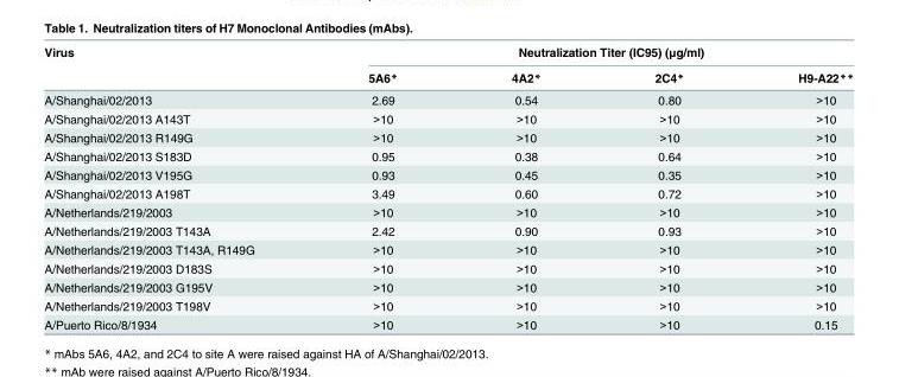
<table><thead><tr><td rowspan="2">Virus</td><td colspan="4">Neutralization Titer (IC95) (μg/ml)</td></tr><tr><td>5A6*</td><td>4A2*</td><td>2C4*</td><td>H9-A22**</td></tr></thead><tbody><tr><td>A/Shanghai/02/2013</td><td>2.69</td><td>0.54</td><td>0.80</td><td>&gt;10</td></tr><tr><td>A/Shanghai/02/2013 A143T</td><td>&gt;10</td><td>&gt;10</td><td>&gt;10</td><td>&gt;10</td></tr><tr><td>A/Shanghai/02/2013 R149G</td><td>&gt;10</td><td>&gt;10</td><td>&gt;10</td><td>&gt;10</td></tr><tr><td>A/Shanghai/02/2013 S183D</td><td>0.95</td><td>0.38</td><td>0.64</td><td>&gt;10</td></tr><tr><td>A/Shanghai/02/2013 V195G</td><td>0.93</td><td>0.45</td><td>0.35</td><td>&gt;10</td></tr><tr><td>A/Shanghai/02/2013 A198T</td><td>3.49</td><td>0.60</td><td>0.72</td><td>&gt;10</td></tr><tr><td>A/Netherlands/219/2003</td><td>&gt;10</td><td>&gt;10</td><td>&gt;10</td><td>&gt;10</td></tr><tr><td>A/Netherlands/219/2003 T143A</td><td>2.42</td><td>0.90</td><td>0.93</td><td>&gt;10</td></tr><tr><td>A/Netherlands/219/2003 T143A, R149G</td><td>&gt;10</td><td>&gt;10</td><td>&gt;10</td><td>&gt;10</td></tr><tr><td>A/Netherlands/219/2003 D183S</td><td>&gt;10</td><td>&gt;10</td><td>&gt;10</td><td>&gt;10</td></tr><tr><td>A/Netherlands/219/2003 G195V</td><td>&gt;10</td><td>&gt;10</td><td>&gt;10</td><td>&gt;10</td></tr><tr><td>A/Netherlands/219/2003 T198V</td><td>&gt;10</td><td>&gt;10</td><td>&gt;10</td><td>&gt;10</td></tr><tr><td>A/Puerto Rico/8/1934</td><td>&gt;10</td><td>&gt;10</td><td>&gt;10</td><td>0.15</td></tr></tbody></table>